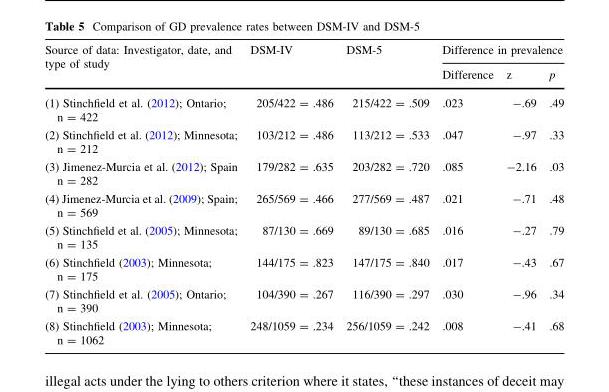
<table><thead><tr><td rowspan="2">Source of data: Investigator, date, and type of study</td><td rowspan="2">DSM-IV</td><td rowspan="2">DSM-5</td><td colspan="3">Difference in prevalence</td></tr><tr><td>Difference</td><td>z</td><td>p</td></tr></thead><tbody><tr><td>(1) Stinchfield et al. (2012); Ontario; n = 422</td><td>205/422 = .486</td><td>215/422 = .509</td><td>.023</td><td>-.69</td><td>.49</td></tr><tr><td>(2) Stinchfield et al. (2012); Minnesota; n = 212</td><td>103/212 = .486</td><td>113/212 = .533</td><td>.047</td><td>-.97</td><td>.33</td></tr><tr><td>(3) Jimenez-Murcia et al. (2012); Spain n = 282</td><td>179/282 = .635</td><td>203/282 = .720</td><td>.085</td><td>-2.16</td><td>.03</td></tr><tr><td>(4) Jimenez-Murcia et al. (2009); Spain; n = 569</td><td>265/569 = .466</td><td>277/569 = .487</td><td>.021</td><td>-.71</td><td>.48</td></tr><tr><td>(5) Stinchfield et al. (2005); Minnesota; n = 135</td><td>87/130 = .669</td><td>89/130 = .685</td><td>.016</td><td>-.27</td><td>.79</td></tr><tr><td>(6) Stinchfield (2003); Minnesota; n = 175</td><td>144/175 = .823</td><td>147/175 = .840</td><td>.017</td><td>-.43</td><td>.67</td></tr><tr><td>(7) Stinchfield et al. (2005); Ontario; n = 390</td><td>104/390 = .267</td><td>116/390 = .297</td><td>.030</td><td>-.96</td><td>.34</td></tr><tr><td>(8) Stinchfield (2003); Minnesota; n = 1062</td><td>248/1059 = .234</td><td>256/1059 = .242</td><td>.008</td><td>-.41</td><td>.68</td></tr></tbody></table>